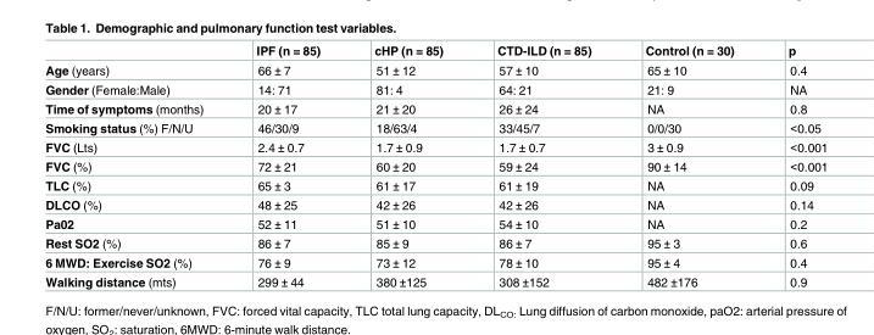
<table><thead><tr><td></td><td>IPF (n = 85)</td><td>cHP (n = 85)</td><td>CTD-ILD (n = 85)</td><td>Control (n = 30)</td><td>p</td></tr></thead><tbody><tr><td>Age (years)</td><td>66 ± 7</td><td>51 ± 12</td><td>57 ± 10</td><td>65 ± 10</td><td>0.4</td></tr><tr><td>Gender (Female:Male)</td><td>14: 71</td><td>81: 4</td><td>64: 21</td><td>21: 9</td><td>NA</td></tr><tr><td>Time of symptoms (months)</td><td>20 ± 17</td><td>21 ± 20</td><td>26 ± 24</td><td>NA</td><td>0.8</td></tr><tr><td>Smoking status (%) F/N/U</td><td>46/30/9</td><td>18/63/4</td><td>33/45/7</td><td>0/0/30</td><td>&lt;0.05</td></tr><tr><td>FVC (Lts)</td><td>2.4 ± 0.7</td><td>1.7 ± 0.9</td><td>1.7 ± 0.7</td><td>3 ± 0.9</td><td>&lt;0.001</td></tr><tr><td>FVC (%)</td><td>72 ± 21</td><td>60 ± 20</td><td>59 ± 24</td><td>90 ± 14</td><td>&lt;0.001</td></tr><tr><td>TLC (%)</td><td>65 ± 3</td><td>61 ± 17</td><td>61 ± 19</td><td>NA</td><td>0.09</td></tr><tr><td>DLCO (%)</td><td>48 ± 25</td><td>42 ± 26</td><td>42 ± 26</td><td>NA</td><td>0.14</td></tr><tr><td>Pa02</td><td>52 ± 11</td><td>51 ± 10</td><td>54 ± 10</td><td>NA</td><td>0.2</td></tr><tr><td>Rest SO2 (%)</td><td>86 ± 7</td><td>85 ± 9</td><td>86 ± 7</td><td>95 ± 3</td><td>0.6</td></tr><tr><td>6 MWD: Exercise SO2 (%)</td><td>76 ± 9</td><td>73 ± 12</td><td>78 ± 10</td><td>95 ± 4</td><td>0.4</td></tr><tr><td>Walking distance (mts)</td><td>299 ± 44</td><td>380 ±125</td><td>308 ±152</td><td>482 ±176</td><td>0.9</td></tr></tbody></table>